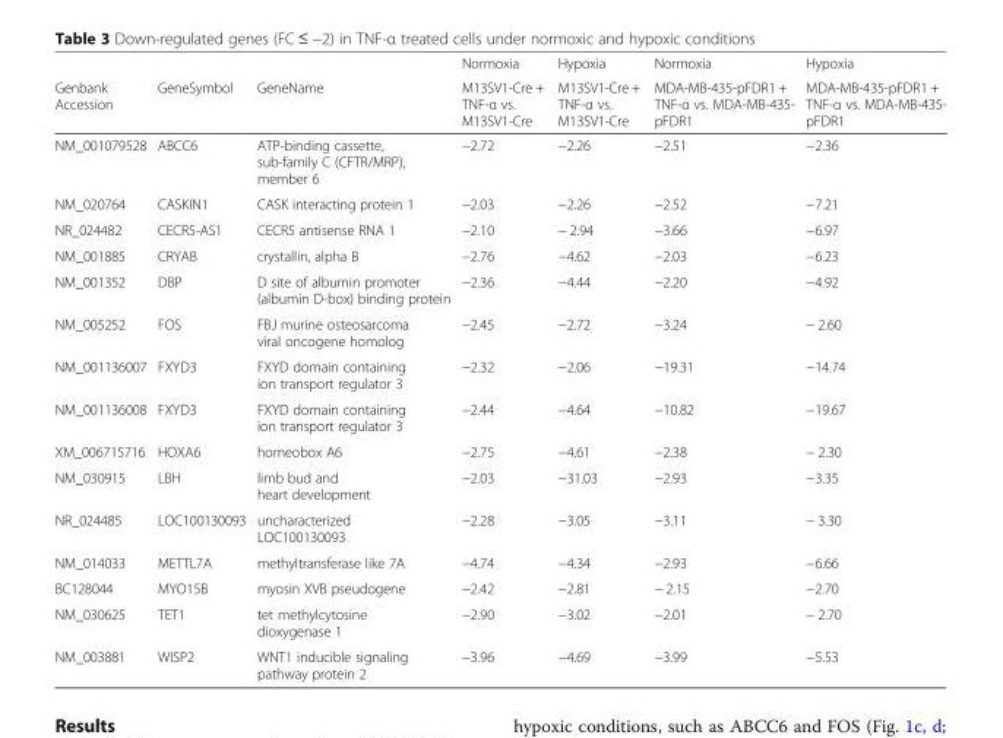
<table><thead><tr><td rowspan="2">Genbank Accession</td><td rowspan="2">GeneSymbol</td><td rowspan="2">GeneName</td><td rowspan="2">Normoxia M13SV1-Cre + TNF-α vs. M13SV1-Cre</td><td rowspan="2">Hypoxia M13SV1-Cre + TNF-α vs. M13SV1-Cre</td><td rowspan="2">Normoxia MDA-MB-435-pFDR1 + TNF-α vs. MDA-MB-435- pFDR1</td><td rowspan="2">Hypoxia MDA-MB-435-pFDR1 + TNF-α vs. MDA-MB-435- pFDR1</td></tr><tr></tr></thead><tbody><tr><td>NM_001079528</td><td>ABCC6</td><td>ATP-binding cassette, sub-family C (CFTR/MRP), member 6</td><td>−2.72</td><td>−2.26</td><td>−2.51</td><td>−2.36</td></tr><tr><td>NM_020764</td><td>CASKIN1</td><td>CASK interacting protein 1</td><td>−2.03</td><td>−2.26</td><td>−2.52</td><td>−7.21</td></tr><tr><td>NR_024482</td><td>CECR5-AS1</td><td>CECR5 antisense RNA 1</td><td>−2.10</td><td>− 2.94</td><td>−3.66</td><td>−6.97</td></tr><tr><td>NM_001885</td><td>CRYAB</td><td>crystallin, alpha B</td><td>−2.76</td><td>−4.62</td><td>−2.03</td><td>−6.23</td></tr><tr><td>NM_001352</td><td>DBP</td><td>D site of albumin promoter (albumin D-box) binding protein</td><td>−2.36</td><td>−4.44</td><td>−2.20</td><td>−4.92</td></tr><tr><td>NM_005252</td><td>FOS</td><td>FBJ murine osteosarcoma viral oncogene homolog</td><td>−2.45</td><td>−2.72</td><td>−3.24</td><td>− 2.60</td></tr><tr><td>NM_001136007</td><td>FXYD3</td><td>FXYD domain containing ion transport regulator 3</td><td>−2.32</td><td>−2.06</td><td>−19.31</td><td>−14.74</td></tr><tr><td>NM_001136008</td><td>FXYD3</td><td>FXYD domain containing ion transport regulator 3</td><td>−2.44</td><td>−4.64</td><td>−10.82</td><td>−19.67</td></tr><tr><td>XM_006715716</td><td>HOXA6</td><td>homeobox A6</td><td>−2.75</td><td>−4.61</td><td>−2.38</td><td>− 2.30</td></tr><tr><td>NM_030915</td><td>LBH</td><td>limb bud and heart development</td><td>−2.03</td><td>−31.03</td><td>−2.93</td><td>−3.35</td></tr><tr><td>NR_024485</td><td>LOC100130093</td><td>uncharacterized LOC100130093</td><td>−2.28</td><td>−3.05</td><td>−3.11</td><td>− 3.30</td></tr><tr><td>NM_014033</td><td>METTL7A</td><td>methyltransferase like 7A</td><td>−4.74</td><td>−4.34</td><td>−2.93</td><td>−6.66</td></tr><tr><td>BC128044</td><td>MYO15B</td><td>myosin XVB pseudogene</td><td>−2.42</td><td>−2.81</td><td>− 2.15</td><td>−2.70</td></tr><tr><td>NM_030625</td><td>TET1</td><td>tet methylcytosine dioxygenase 1</td><td>−2.90</td><td>−3.02</td><td>−2.01</td><td>− 2.70</td></tr><tr><td>NM_003881</td><td>WISP2</td><td>WNT1 inducible signaling pathway protein 2</td><td>−3.96</td><td>−4.69</td><td>−3.99</td><td>−5.53</td></tr></tbody></table>